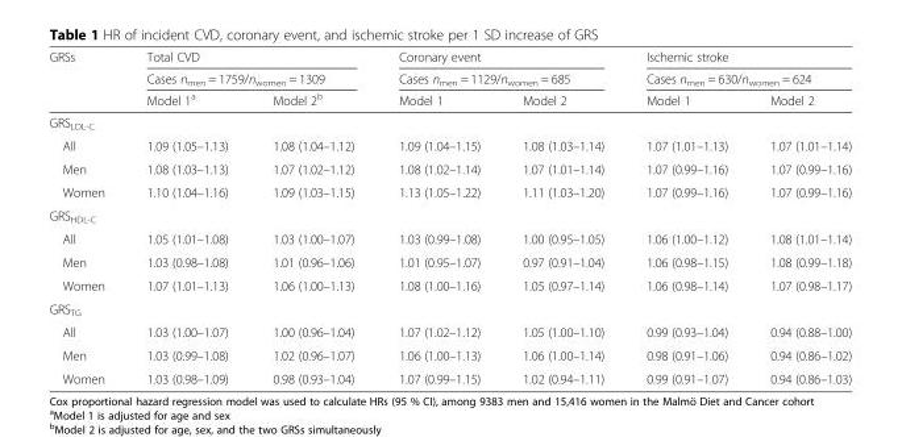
<table><thead><tr><td rowspan="3">GRSs</td><td rowspan="2" colspan="2">Total CVD Cases n<sub>men</sub> = 1759/n<sub>women</sub> = 1309</td><td rowspan="2" colspan="2">Coronary event Cases n<sub>men</sub> = 1129/n<sub>women</sub> = 685</td><td rowspan="2" colspan="2">Ischemic stroke Cases n<sub>men</sub> = 630/n<sub>women</sub> = 624</td></tr><tr></tr><tr><td>Model 1<sup>a</sup></td><td>Model 2<sup>b</sup></td><td>Model 1</td><td>Model 2</td><td>Model 1</td><td>Model 2</td></tr></thead><tbody><tr><td colspan="7">GRS<sub>LDL-C</sub></td></tr><tr><td>All</td><td>1.09 (1.05–1.13)</td><td>1.08 (1.04–1.12)</td><td>1.09 (1.04–1.15)</td><td>1.08 (1.03–1.14)</td><td>1.07 (1.01–1.13)</td><td>1.07 (1.01–1.14)</td></tr><tr><td>Men</td><td>1.08 (1.03–1.13)</td><td>1.07 (1.02–1.12)</td><td>1.08 (1.02–1.14)</td><td>1.07 (1.01–1.14)</td><td>1.07 (0.99–1.16)</td><td>1.07 (0.99–1.16)</td></tr><tr><td>Women</td><td>1.10 (1.04–1.16)</td><td>1.09 (1.03–1.15)</td><td>1.13 (1.05–1.22)</td><td>1.11 (1.03–1.20)</td><td>1.07 (0.99–1.16)</td><td>1.07 (0.99–1.16)</td></tr><tr><td colspan="7">GRS<sub>HDL-C</sub></td></tr><tr><td>All</td><td>1.05 (1.01–1.08)</td><td>1.03 (1.00–1.07)</td><td>1.03 (0.99–1.08)</td><td>1.00 (0.95–1.05)</td><td>1.06 (1.00–1.12)</td><td>1.08 (1.01–1.14)</td></tr><tr><td>Men</td><td>1.03 (0.98–1.08)</td><td>1.01 (0.96–1.06)</td><td>1.01 (0.95–1.07)</td><td>0.97 (0.91–1.04)</td><td>1.06 (0.98–1.15)</td><td>1.08 (0.99–1.18)</td></tr><tr><td>Women</td><td>1.07 (1.01–1.13)</td><td>1.06 (1.00–1.13)</td><td>1.08 (1.00–1.16)</td><td>1.05 (0.97–1.14)</td><td>1.06 (0.98–1.14)</td><td>1.07 (0.98–1.17)</td></tr><tr><td colspan="7">GRS<sub>TG</sub></td></tr><tr><td>All</td><td>1.03 (1.00–1.07)</td><td>1.00 (0.96–1.04)</td><td>1.07 (1.02–1.12)</td><td>1.05 (1.00–1.10)</td><td>0.99 (0.93–1.04)</td><td>0.94 (0.88–1.00)</td></tr><tr><td>Men</td><td>1.03 (0.99–1.08)</td><td>1.02 (0.96–1.07)</td><td>1.06 (1.00–1.13)</td><td>1.06 (1.00–1.14)</td><td>0.98 (0.91–1.06)</td><td>0.94 (0.86–1.02)</td></tr><tr><td>Women</td><td>1.03 (0.98–1.09)</td><td>0.98 (0.93–1.04)</td><td>1.07 (0.99–1.15)</td><td>1.02 (0.94–1.11)</td><td>0.99 (0.91–1.07)</td><td>0.94 (0.86–1.03)</td></tr></tbody></table>